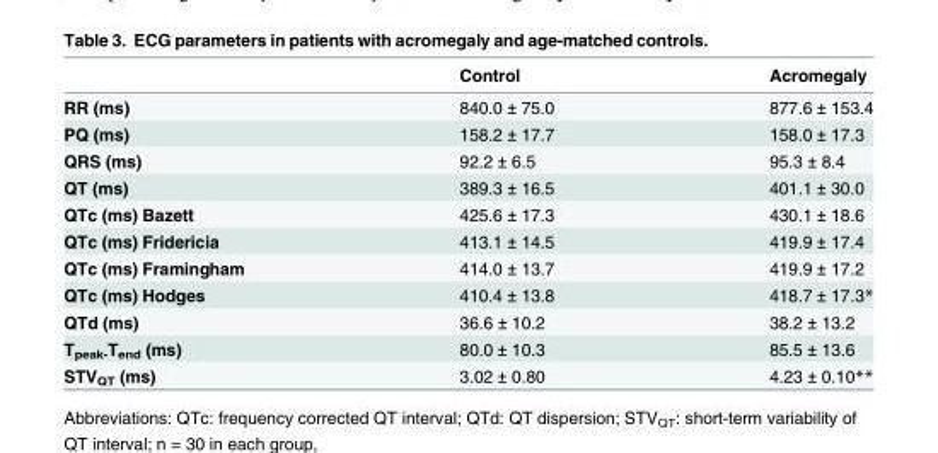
<table><thead><tr><td></td><td>Control</td><td>Acromegaly</td></tr></thead><tbody><tr><td>RR (ms)</td><td>840.0 ± 75.0</td><td>877.6 ± 153.4</td></tr><tr><td>PQ (ms)</td><td>158.2 ± 17.7</td><td>158.0 ± 17.3</td></tr><tr><td>QRS (ms)</td><td>92.2 ± 6.5</td><td>95.3 ± 8.4</td></tr><tr><td>QT (ms)</td><td>389.3 ± 16.5</td><td>401.1 ± 30.0</td></tr><tr><td>QTc (ms) Bazett</td><td>425.6 ± 17.3</td><td>430.1 ± 18.6</td></tr><tr><td>QTc (ms) Fridericia</td><td>413.1 ± 14.5</td><td>419.9 ± 17.4</td></tr><tr><td>QTc (ms) Framingham</td><td>414.0 ± 13.7</td><td>419.9 ± 17.2</td></tr><tr><td>QTc (ms) Hodges</td><td>410.4 ± 13.8</td><td>418.7 ± 17.3*</td></tr><tr><td>QTd (ms)</td><td>36.6 ± 10.2</td><td>38.2 ± 13.2</td></tr><tr><td>T<sub>peak-</sub>T<sub>end</sub> (ms)</td><td>80.0 ± 10.3</td><td>85.5 ± 13.6</td></tr><tr><td>STV<sub>QT</sub> (ms)</td><td>3.02 ± 0.80</td><td>4.23 ± 0.10**</td></tr></tbody></table>